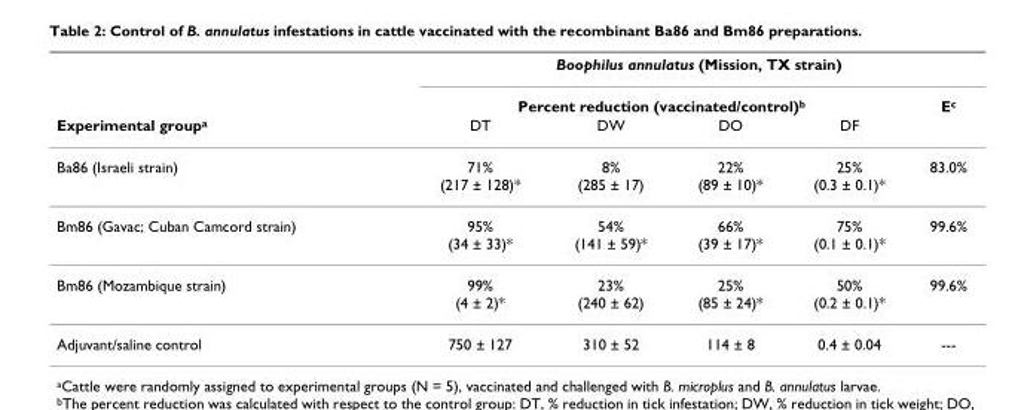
<table><thead><tr><td rowspan="3">Experimental group<sup>a</sup></td><td colspan="5">Boophilus annulatus (Mission, TX strain)</td></tr><tr><td colspan="4">Percent reduction (vaccinated/control)<sup>b</sup></td><td rowspan="2">E<sup>c</sup></td></tr><tr><td>DT</td><td>DW</td><td>DO</td><td>DF</td></tr></thead><tbody><tr><td>Ba86 (Israeli strain)</td><td>71% (217 ± 128)*</td><td>8% (285 ± 17)</td><td>22% (89 ± 10)*</td><td>25% (0.3 ± 0.1)*</td><td>83.0%</td></tr><tr><td>Bm86 (Gavac; Cuban Camcord strain)</td><td>95% (34 ± 33)*</td><td>54% (141 ± 59)*</td><td>66% (39 ± 17)*</td><td>75% (0.1 ± 0.1)*</td><td>99.6%</td></tr><tr><td>Bm86 (Mozambique strain)</td><td>99% (4 ± 2)*</td><td>23% (240 ± 62)</td><td>25% (85 ± 24)*</td><td>50% (0.2 ± 0.1)*</td><td>99.6%</td></tr><tr><td>Adjuvant/saline control</td><td>750 ± 127</td><td>310 ± 52</td><td>114 ± 8</td><td>0.4 ± 0.04</td><td>---</td></tr></tbody></table>